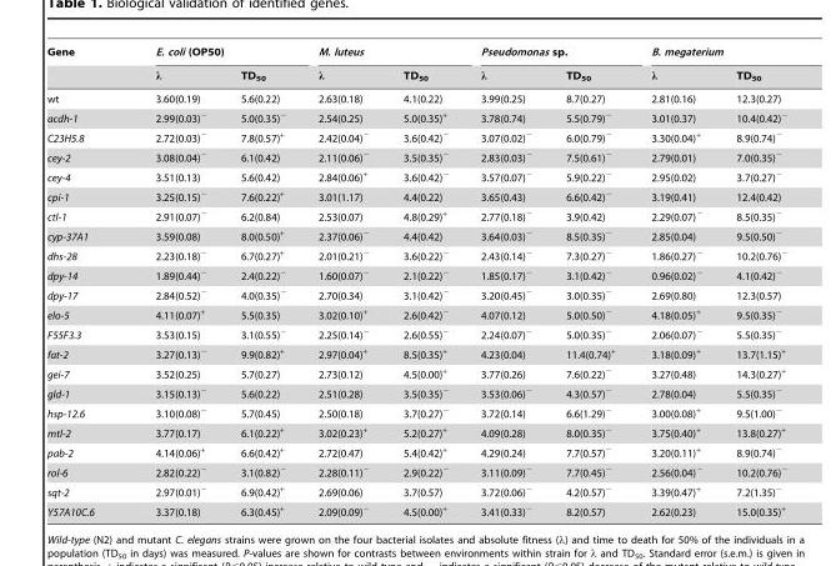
<table><thead><tr><td rowspan="2">Gene</td><td colspan="2">E. coli (OP50)</td><td colspan="2">M. luteus</td><td colspan="2">Pseudomonas sp.</td><td colspan="2">B. megaterium</td></tr><tr><td>λ</td><td>TD<sub>50</sub></td><td>λ</td><td>TD<sub>50</sub></td><td>λ</td><td>TD<sub>50</sub></td><td>λ</td><td>TD<sub>50</sub></td></tr></thead><tbody><tr><td>wt</td><td>3.60(0.19)</td><td>5.6(0.22)</td><td>2.63(0.18)</td><td>4.1(0.22)</td><td>3.99(0.25)</td><td>8.7(0.27)</td><td>2.81(0.16)</td><td>12.3(0.27)</td></tr><tr><td>acdh-1</td><td>2.99(0.03)<sup>−</sup></td><td>5.0(0.35)<sup>−</sup></td><td>2.54(0.25)</td><td>5.0(0.35)<sup>+</sup></td><td>3.78(0.74)</td><td>5.5(0.79)<sup>−</sup></td><td>3.01(0.37)</td><td>10.4(0.42)<sup>−</sup></td></tr><tr><td>C23H5.8</td><td>2.72(0.03)<sup>−</sup></td><td>7.8(0.57)<sup>+</sup></td><td>2.42(0.04)<sup>−</sup></td><td>3.6(0.42)<sup>−</sup></td><td>3.07(0.02)<sup>−</sup></td><td>6.0(0.79)<sup>−</sup></td><td>3.30(0.04)<sup>+</sup></td><td>8.9(0.74)<sup>−</sup></td></tr><tr><td>cey-2</td><td>3.08(0.04)<sup>−</sup></td><td>6.1(0.42)</td><td>2.11(0.06)<sup>−</sup></td><td>3.5(0.35)<sup>−</sup></td><td>2.83(0.03)<sup>−</sup></td><td>7.5(0.61)<sup>−</sup></td><td>2.79(0.01)</td><td>7.0(0.35)<sup>−</sup></td></tr><tr><td>cey-4</td><td>3.51(0.13)</td><td>5.6(0.42)</td><td>2.84(0.06)<sup>+</sup></td><td>3.6(0.42)<sup>−</sup></td><td>3.57(0.07)<sup>−</sup></td><td>5.9(0.22)<sup>−</sup></td><td>2.95(0.02)</td><td>3.7(0.27)<sup>−</sup></td></tr><tr><td>cpi-1</td><td>3.25(0.15)<sup>−</sup></td><td>7.6(0.22)<sup>+</sup></td><td>3.01(1.17)</td><td>4.4(0.22)</td><td>3.65(0.43)</td><td>6.6(0.42)<sup>−</sup></td><td>3.19(0.41)</td><td>12.4(0.42)</td></tr><tr><td>ctl-1</td><td>2.91(0.07)<sup>−</sup></td><td>6.2(0.84)</td><td>2.53(0.07)</td><td>4.8(0.29)<sup>+</sup></td><td>2.77(0.18)<sup>−</sup></td><td>3.9(0.42)</td><td>2.29(0.07)<sup>−</sup></td><td>8.5(0.35)<sup>−</sup></td></tr><tr><td>cyp-37A1</td><td>3.59(0.08)</td><td>8.0(0.50)<sup>+</sup></td><td>2.37(0.06)<sup>−</sup></td><td>4.4(0.42)</td><td>3.64(0.03)<sup>−</sup></td><td>8.5(0.35)<sup>−</sup></td><td>2.85(0.04)</td><td>9.5(0.50)<sup>−</sup></td></tr><tr><td>dhs-28</td><td>2.23(0.18)<sup>−</sup></td><td>6.7(0.27)<sup>+</sup></td><td>2.01(0.21)<sup>−</sup></td><td>3.6(0.22)<sup>−</sup></td><td>2.43(0.14)<sup>−</sup></td><td>7.3(0.27)<sup>−</sup></td><td>1.86(0.27)<sup>−</sup></td><td>10.2(0.76)<sup>−</sup></td></tr><tr><td>dpy-14</td><td>1.89(0.44)<sup>−</sup></td><td>2.4(0.22)<sup>−</sup></td><td>1.60(0.07)<sup>−</sup></td><td>2.1(0.22)<sup>−</sup></td><td>1.85(0.17)<sup>−</sup></td><td>3.1(0.42)<sup>−</sup></td><td>0.96(0.02)<sup>−</sup></td><td>4.1(0.42)<sup>−</sup></td></tr><tr><td>dpy-17</td><td>2.84(0.52)<sup>−</sup></td><td>4.0(0.35)<sup>−</sup></td><td>2.70(0.34)</td><td>3.1(0.42)<sup>−</sup></td><td>3.20(0.45)<sup>−</sup></td><td>3.0(0.35)<sup>−</sup></td><td>2.69(0.80)</td><td>12.3(0.57)</td></tr><tr><td>elo-5</td><td>4.11(0.07)<sup>+</sup></td><td>5.5(0.35)</td><td>3.02(0.10)<sup>+</sup></td><td>2.6(0.42)<sup>−</sup></td><td>4.07(0.12)</td><td>5.0(0.50)<sup>−</sup></td><td>4.18(0.05)<sup>+</sup></td><td>9.5(0.35)<sup>−</sup></td></tr><tr><td>F55F3.3</td><td>3.53(0.15)</td><td>3.1(0.55)<sup>−</sup></td><td>2.25(0.14)<sup>−</sup></td><td>2.6(0.55)<sup>−</sup></td><td>2.24(0.07)<sup>−</sup></td><td>5.0(0.35)<sup>−</sup></td><td>2.06(0.07)<sup>−</sup></td><td>5.5(0.35)<sup>−</sup></td></tr><tr><td>fat-2</td><td>3.27(0.13)<sup>−</sup></td><td>9.9(0.82)<sup>+</sup></td><td>2.97(0.04)<sup>+</sup></td><td>8.5(0.35)<sup>+</sup></td><td>4.23(0.04)</td><td>11.4(0.74)<sup>+</sup></td><td>3.18(0.09)<sup>+</sup></td><td>13.7(1.15)<sup>+</sup></td></tr><tr><td>gei-7</td><td>3.52(0.25)</td><td>5.7(0.27)</td><td>2.73(0.12)</td><td>4.5(0.00)<sup>+</sup></td><td>3.77(0.26)</td><td>7.6(0.22)<sup>−</sup></td><td>3.27(0.48)</td><td>14.3(0.27)<sup>+</sup></td></tr><tr><td>gld-1</td><td>3.15(0.13)<sup>−</sup></td><td>5.6(0.22)</td><td>2.51(0.28)</td><td>3.5(0.35)<sup>−</sup></td><td>3.53(0.06)<sup>−</sup></td><td>4.3(0.57)<sup>−</sup></td><td>2.78(0.04)</td><td>5.5(0.35)<sup>−</sup></td></tr><tr><td>hsp-12.6</td><td>3.10(0.08)<sup>−</sup></td><td>5.7(0.45)</td><td>2.50(0.18)</td><td>3.7(0.27)<sup>−</sup></td><td>3.72(0.14)</td><td>6.6(1.29)<sup>−</sup></td><td>3.00(0.08)<sup>+</sup></td><td>9.5(1.00)<sup>−</sup></td></tr><tr><td>mtl-2</td><td>3.77(0.17)</td><td>6.1(0.22)<sup>+</sup></td><td>3.02(0.23)<sup>+</sup></td><td>5.2(0.27)<sup>+</sup></td><td>4.09(0.28)</td><td>8.0(0.35)<sup>−</sup></td><td>3.75(0.40)<sup>+</sup></td><td>13.8(0.27)<sup>+</sup></td></tr><tr><td>pab-2</td><td>4.14(0.06)<sup>+</sup></td><td>6.6(0.42)<sup>+</sup></td><td>2.72(0.47)</td><td>5.4(0.42)<sup>+</sup></td><td>4.29(0.24)</td><td>7.7(0.57)<sup>−</sup></td><td>3.20(0.11)<sup>+</sup></td><td>8.9(0.74)<sup>−</sup></td></tr><tr><td>rol-6</td><td>2.82(0.22)<sup>−</sup></td><td>3.1(0.82)<sup>−</sup></td><td>2.28(0.11)<sup>−</sup></td><td>2.9(0.22)<sup>−</sup></td><td>3.11(0.09)<sup>−</sup></td><td>7.7(0.45)<sup>−</sup></td><td>2.56(0.04)<sup>−</sup></td><td>10.2(0.76)<sup>−</sup></td></tr><tr><td>sqt-2</td><td>2.97(0.01)<sup>−</sup></td><td>6.9(0.42)<sup>+</sup></td><td>2.69(0.06)</td><td>3.7(0.57)</td><td>3.72(0.06)<sup>−</sup></td><td>4.2(0.57)<sup>−</sup></td><td>3.39(0.47)<sup>+</sup></td><td>7.2(1.35)<sup>−</sup></td></tr><tr><td>Y57A10C.6</td><td>3.37(0.18)</td><td>6.3(0.45)<sup>+</sup></td><td>2.09(0.09)<sup>−</sup></td><td>4.5(0.00)<sup>+</sup></td><td>3.41(0.33)<sup>−</sup></td><td>8.2(0.57)</td><td>2.62(0.23)</td><td>15.0(0.35)<sup>+</sup></td></tr></tbody></table>